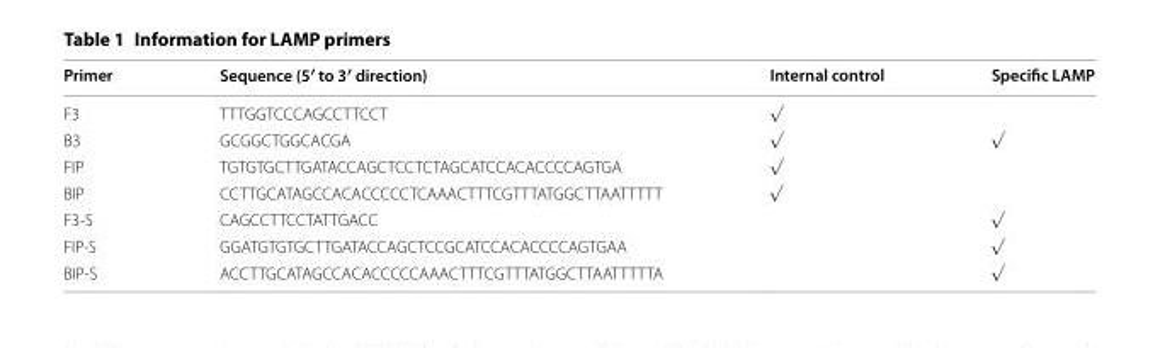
<table><thead><tr><td>Primer</td><td>Sequence (5′ to 3′ direction)</td><td>Internal control</td><td>Specific LAMP</td></tr></thead><tbody><tr><td>F3</td><td>TTTGGTCCCAGCCTTCCT</td><td>√</td><td></td></tr><tr><td>B3</td><td>GCGGCTGGCACGA</td><td>√</td><td>√</td></tr><tr><td>FIP</td><td>TGTGTGCTTGATACCAGCTCCTCTAGCATCCACACCCCAGTGA</td><td>√</td><td></td></tr><tr><td>BIP</td><td>CCTTGCATAGCCACACCCCCTCAAACTTTCGTTTATGGCTTAATTTTT</td><td>√</td><td></td></tr><tr><td>F3‑S</td><td>CAGCCTTCCTATTGACC</td><td></td><td>√</td></tr><tr><td>FIP‑S</td><td>GGATGTGTGCTTGATACCAGCTCCGCATCCACACCCCAGTGAA</td><td></td><td>√</td></tr><tr><td>BIP‑S</td><td>ACCTTGCATAGCCACACCCCCAAACTTTCGTTTATGGCTTAATTTTTA</td><td></td><td>√</td></tr></tbody></table>